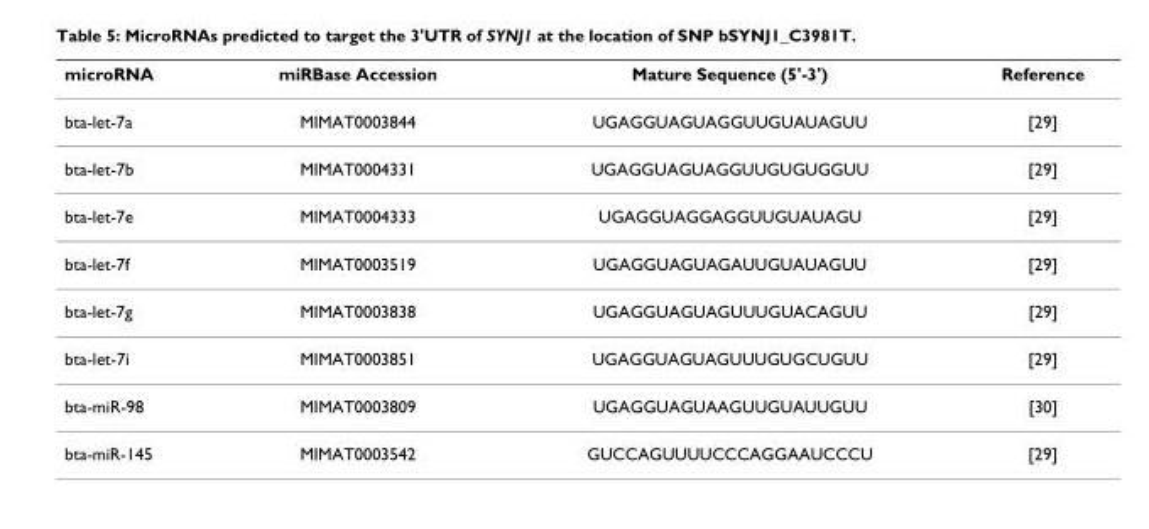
<table><thead><tr><td>microRNA</td><td>miRBase Accession</td><td>Mature Sequence (5&#x27;-3&#x27;)</td><td>Reference</td></tr></thead><tbody><tr><td>bta-let-7a</td><td>MIMAT0003844</td><td>UGAGGUAGUAGGUUGUAUAGUU</td><td>[29]</td></tr><tr><td>bta-let-7b</td><td>MIMAT0004331</td><td>UGAGGUAGUAGGUUGUGUGGUU</td><td>[29]</td></tr><tr><td>bta-let-7e</td><td>MIMAT0004333</td><td>UGAGGUAGGAGGUUGUAUAGU</td><td>[29]</td></tr><tr><td>bta-let-7f</td><td>MIMAT0003519</td><td>UGAGGUAGUAGAUUGUAUAGUU</td><td>[29]</td></tr><tr><td>bta-let-7g</td><td>MIMAT0003838</td><td>UGAGGUAGUAGUUUGUACAGUU</td><td>[29]</td></tr><tr><td>bta-let-7i</td><td>MIMAT0003851</td><td>UGAGGUAGUAGUUUGUGCUGUU</td><td>[29]</td></tr><tr><td>bta-miR-98</td><td>MIMAT0003809</td><td>UGAGGUAGUAAGUUGUAUUGUU</td><td>[30]</td></tr><tr><td>bta-miR-145</td><td>MIMAT0003542</td><td>GUCCAGUUUUCCCAGGAAUCCCU</td><td>[29]</td></tr></tbody></table>